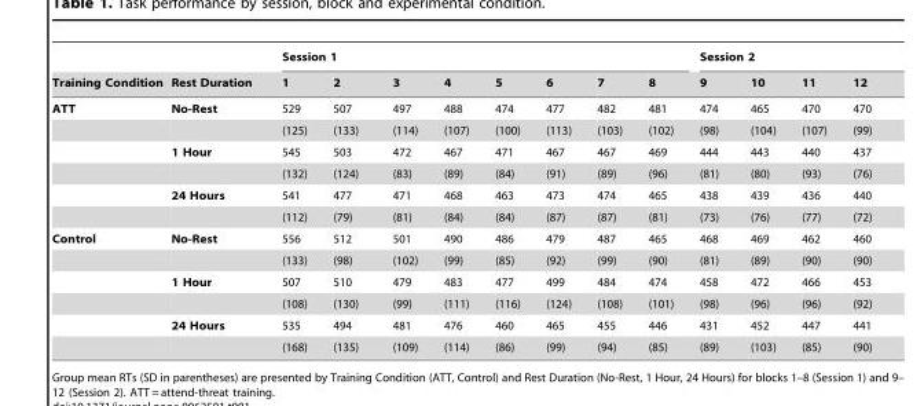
<table><thead><tr><td rowspan="2">Training Condition</td><td rowspan="2">Rest Duration</td><td colspan="8">Session 1</td><td colspan="4">Session 2</td></tr><tr><td>1</td><td>2</td><td>3</td><td>4</td><td>5</td><td>6</td><td>7</td><td>8</td><td>9</td><td>10</td><td>11</td><td>12</td></tr></thead><tbody><tr><td rowspan="6">ATT</td><td>No-Rest</td><td>529</td><td>507</td><td>497</td><td>488</td><td>474</td><td>477</td><td>482</td><td>481</td><td>474</td><td>465</td><td>470</td><td>470</td></tr><tr><td></td><td>(125)</td><td>(133)</td><td>(114)</td><td>(107)</td><td>(100)</td><td>(113)</td><td>(103)</td><td>(102)</td><td>(98)</td><td>(104)</td><td>(107)</td><td>(99)</td></tr><tr><td>1 Hour</td><td>545</td><td>503</td><td>472</td><td>467</td><td>471</td><td>467</td><td>467</td><td>469</td><td>444</td><td>443</td><td>440</td><td>437</td></tr><tr><td></td><td>(132)</td><td>(124)</td><td>(83)</td><td>(89)</td><td>(84)</td><td>(91)</td><td>(89)</td><td>(96)</td><td>(81)</td><td>(80)</td><td>(93)</td><td>(76)</td></tr><tr><td>24 Hours</td><td>541</td><td>477</td><td>471</td><td>468</td><td>463</td><td>473</td><td>474</td><td>465</td><td>438</td><td>439</td><td>436</td><td>440</td></tr><tr><td></td><td>(112)</td><td>(79)</td><td>(81)</td><td>(84)</td><td>(84)</td><td>(87)</td><td>(87)</td><td>(81)</td><td>(73)</td><td>(76)</td><td>(77)</td><td>(72)</td></tr><tr><td rowspan="6">Control</td><td>No-Rest</td><td>556</td><td>512</td><td>501</td><td>490</td><td>486</td><td>479</td><td>487</td><td>465</td><td>468</td><td>469</td><td>462</td><td>460</td></tr><tr><td></td><td>(133)</td><td>(98)</td><td>(102)</td><td>(99)</td><td>(85)</td><td>(92)</td><td>(99)</td><td>(90)</td><td>(81)</td><td>(89)</td><td>(90)</td><td>(90)</td></tr><tr><td>1 Hour</td><td>507</td><td>510</td><td>479</td><td>483</td><td>477</td><td>499</td><td>484</td><td>474</td><td>458</td><td>472</td><td>466</td><td>453</td></tr><tr><td></td><td>(108)</td><td>(130)</td><td>(99)</td><td>(111)</td><td>(116)</td><td>(124)</td><td>(108)</td><td>(101)</td><td>(98)</td><td>(96)</td><td>(96)</td><td>(92)</td></tr><tr><td>24 Hours</td><td>535</td><td>494</td><td>481</td><td>476</td><td>460</td><td>465</td><td>455</td><td>446</td><td>431</td><td>452</td><td>447</td><td>441</td></tr><tr><td></td><td>(168)</td><td>(135)</td><td>(109)</td><td>(114)</td><td>(86)</td><td>(99)</td><td>(94)</td><td>(85)</td><td>(89)</td><td>(103)</td><td>(85)</td><td>(90)</td></tr></tbody></table>